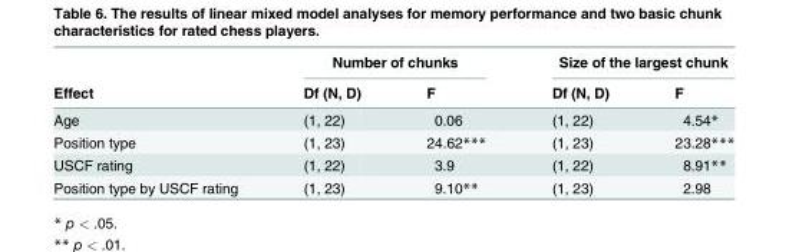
<table><thead><tr><td rowspan="2">Effect</td><td colspan="2">Number of chunks</td><td colspan="2">Size of the largest chunk</td></tr><tr><td>Df (N, D)</td><td>F</td><td>Df (N, D)</td><td>F</td></tr></thead><tbody><tr><td>Age</td><td>(1, 22)</td><td>0.06</td><td>(1, 22)</td><td>4.54*</td></tr><tr><td>Position type</td><td>(1, 23)</td><td>24.62***</td><td>(1, 23)</td><td>23.28***</td></tr><tr><td>USCF rating</td><td>(1, 22)</td><td>3.9</td><td>(1, 22)</td><td>8.91**</td></tr><tr><td>Position type by USCF rating</td><td>(1, 23)</td><td>9.10**</td><td>(1, 23)</td><td>2.98</td></tr></tbody></table>